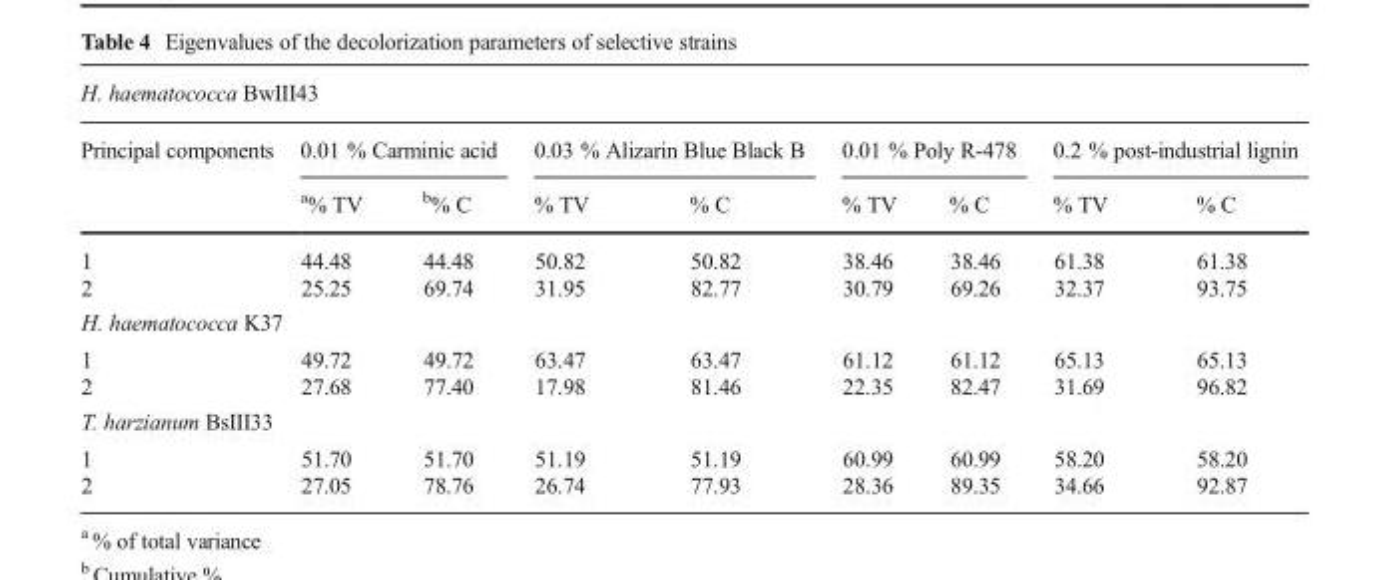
<table><thead><tr><td colspan="9">H. haematococca BwIII43</td></tr><tr><td rowspan="2">Principal components</td><td colspan="2">0.01 % Carminic acid</td><td colspan="2">0.03 % Alizarin Blue Black B</td><td colspan="2">0.01 % Poly R-478</td><td colspan="2">0.2 % post-industrial lignin</td></tr><tr><td><sup>a</sup>% TV</td><td><sup>b</sup>% C</td><td>% TV</td><td>% C</td><td>% TV</td><td>% C</td><td>% TV</td><td>% C</td></tr></thead><tbody><tr><td>1 2</td><td>44.48 25.25</td><td>44.48 69.74</td><td>50.82 31.95</td><td>50.82 82.77</td><td>38.46 30.79</td><td>38.46 69.26</td><td>61.38 32.37</td><td>61.38 93.75</td></tr><tr><td colspan="9">H. haematococca K37</td></tr><tr><td>1 2</td><td>49.72 27.68</td><td>49.72 77.40</td><td>63.47 17.98</td><td>63.47 81.46</td><td>61.12 22.35</td><td>61.12 82.47</td><td>65.13 31.69</td><td>65.13 96.82</td></tr><tr><td colspan="9">T. harzianum BsIII33</td></tr><tr><td>1 2</td><td>51.70 27.05</td><td>51.70 78.76</td><td>51.19 26.74</td><td>51.19 77.93</td><td>60.99 28.36</td><td>60.99 89.35</td><td>58.20 34.66</td><td>58.20 92.87</td></tr></tbody></table>